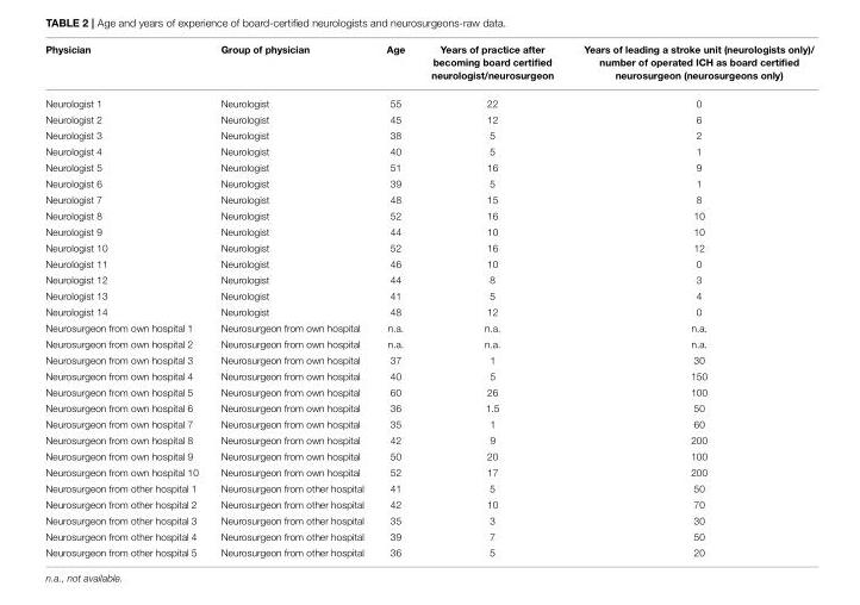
<table><thead><tr><td>Physician</td><td>Group of physician</td><td>Age</td><td>Years of practice after becoming board certified neurologist/neurosurgeon</td><td>Years of leading a stroke unit (neurologists only)/ number of operated ICH as board certified neurosurgeon (neurosurgeons only)</td></tr></thead><tbody><tr><td>Neurologist 1</td><td>Neurologist</td><td>55</td><td>22</td><td>0</td></tr><tr><td>Neurologist 2</td><td>Neurologist</td><td>45</td><td>12</td><td>6</td></tr><tr><td>Neurologist 3</td><td>Neurologist</td><td>38</td><td>5</td><td>2</td></tr><tr><td>Neurologist 4</td><td>Neurologist</td><td>40</td><td>5</td><td>1</td></tr><tr><td>Neurologist 5</td><td>Neurologist</td><td>51</td><td>16</td><td>9</td></tr><tr><td>Neurologist 6</td><td>Neurologist</td><td>39</td><td>5</td><td>1</td></tr><tr><td>Neurologist 7</td><td>Neurologist</td><td>48</td><td>15</td><td>8</td></tr><tr><td>Neurologist 8</td><td>Neurologist</td><td>52</td><td>16</td><td>10</td></tr><tr><td>Neurologist 9</td><td>Neurologist</td><td>44</td><td>10</td><td>10</td></tr><tr><td>Neurologist 10</td><td>Neurologist</td><td>52</td><td>16</td><td>12</td></tr><tr><td>Neurologist 11</td><td>Neurologist</td><td>46</td><td>10</td><td>0</td></tr><tr><td>Neurologist 12</td><td>Neurologist</td><td>44</td><td>8</td><td>3</td></tr><tr><td>Neurologist 13</td><td>Neurologist</td><td>41</td><td>5</td><td>4</td></tr><tr><td>Neurologist 14</td><td>Neurologist</td><td>48</td><td>12</td><td>0</td></tr><tr><td>Neurosurgeon from own hospital 1</td><td>Neurosurgeon from own hospital</td><td>n.a.</td><td>n.a.</td><td>n.a.</td></tr><tr><td>Neurosurgeon from own hospital 2</td><td>Neurosurgeon from own hospital</td><td>n.a.</td><td>n.a.</td><td>n.a.</td></tr><tr><td>Neurosurgeon from own hospital 3</td><td>Neurosurgeon from own hospital</td><td>37</td><td>1</td><td>30</td></tr><tr><td>Neurosurgeon from own hospital 4</td><td>Neurosurgeon from own hospital</td><td>40</td><td>5</td><td>150</td></tr><tr><td>Neurosurgeon from own hospital 5</td><td>Neurosurgeon from own hospital</td><td>60</td><td>26</td><td>100</td></tr><tr><td>Neurosurgeon from own hospital 6</td><td>Neurosurgeon from own hospital</td><td>36</td><td>1.5</td><td>50</td></tr><tr><td>Neurosurgeon from own hospital 7</td><td>Neurosurgeon from own hospital</td><td>35</td><td>1</td><td>60</td></tr><tr><td>Neurosurgeon from own hospital 8</td><td>Neurosurgeon from own hospital</td><td>42</td><td>9</td><td>200</td></tr><tr><td>Neurosurgeon from own hospital 9</td><td>Neurosurgeon from own hospital</td><td>50</td><td>20</td><td>100</td></tr><tr><td>Neurosurgeon from own hospital 10</td><td>Neurosurgeon from own hospital</td><td>52</td><td>17</td><td>200</td></tr><tr><td>Neurosurgeon from other hospital 1</td><td>Neurosurgeon from other hospital</td><td>41</td><td>5</td><td>50</td></tr><tr><td>Neurosurgeon from other hospital 2</td><td>Neurosurgeon from other hospital</td><td>42</td><td>10</td><td>70</td></tr><tr><td>Neurosurgeon from other hospital 3</td><td>Neurosurgeon from other hospital</td><td>35</td><td>3</td><td>30</td></tr><tr><td>Neurosurgeon from other hospital 4</td><td>Neurosurgeon from other hospital</td><td>39</td><td>7</td><td>50</td></tr><tr><td>Neurosurgeon from other hospital 5</td><td>Neurosurgeon from other hospital</td><td>36</td><td>5</td><td>20</td></tr></tbody></table>